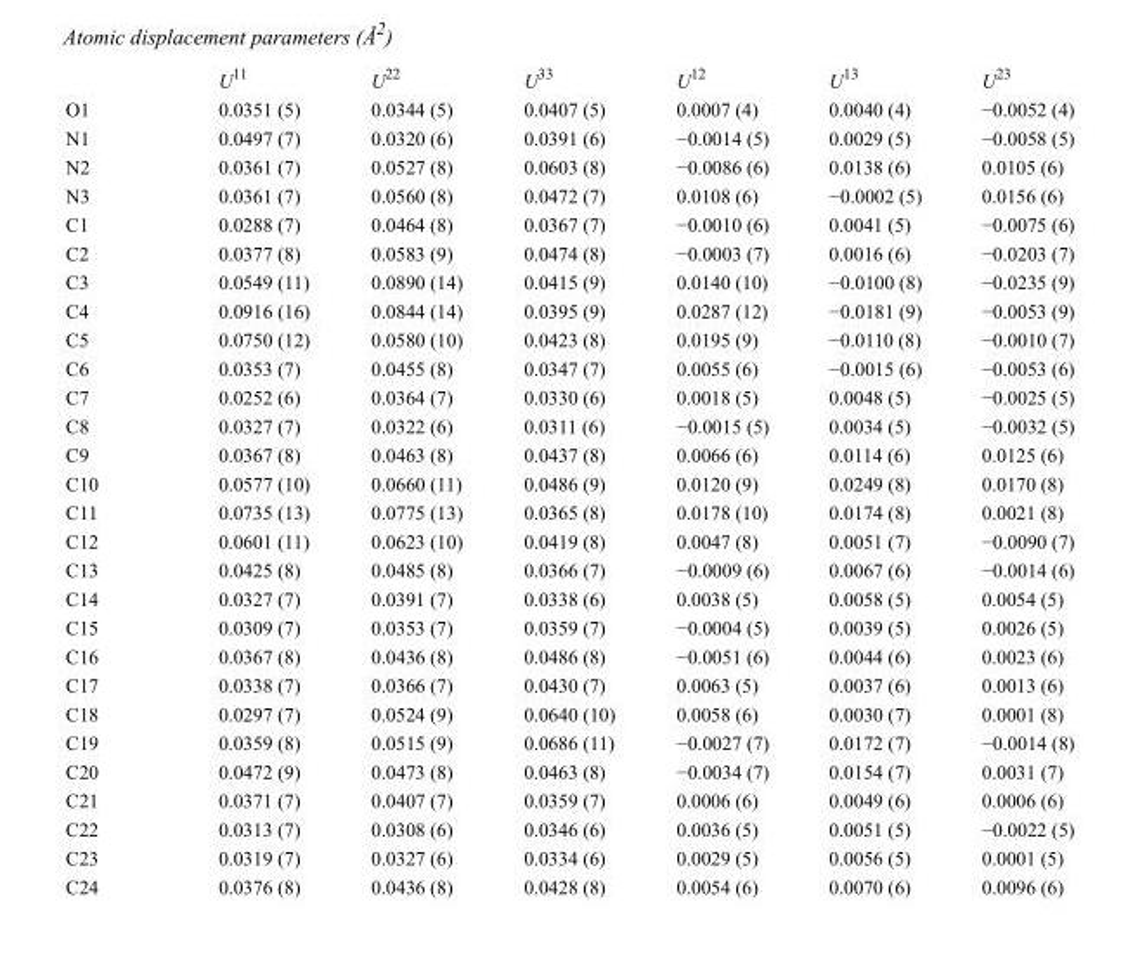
<table><thead><tr><td></td><td>U<sup>11</sup></td><td>U<sup>22</sup></td><td>U<sup>33</sup></td><td>U<sup>12</sup></td><td>U<sup>13</sup></td><td>U<sup>23</sup></td></tr></thead><tbody><tr><td>O1</td><td>0.0351 (5)</td><td>0.0344 (5)</td><td>0.0407 (5)</td><td>0.0007 (4)</td><td>0.0040 (4)</td><td>−0.0052 (4)</td></tr><tr><td>N1</td><td>0.0497 (7)</td><td>0.0320 (6)</td><td>0.0391 (6)</td><td>−0.0014 (5)</td><td>0.0029 (5)</td><td>−0.0058 (5)</td></tr><tr><td>N2</td><td>0.0361 (7)</td><td>0.0527 (8)</td><td>0.0603 (8)</td><td>−0.0086 (6)</td><td>0.0138 (6)</td><td>0.0105 (6)</td></tr><tr><td>N3</td><td>0.0361 (7)</td><td>0.0560 (8)</td><td>0.0472 (7)</td><td>0.0108 (6)</td><td>−0.0002 (5)</td><td>0.0156 (6)</td></tr><tr><td>C1</td><td>0.0288 (7)</td><td>0.0464 (8)</td><td>0.0367 (7)</td><td>−0.0010 (6)</td><td>0.0041 (5)</td><td>−0.0075 (6)</td></tr><tr><td>C2</td><td>0.0377 (8)</td><td>0.0583 (9)</td><td>0.0474 (8)</td><td>−0.0003 (7)</td><td>0.0016 (6)</td><td>−0.0203 (7)</td></tr><tr><td>C3</td><td>0.0549 (11)</td><td>0.0890 (14)</td><td>0.0415 (9)</td><td>0.0140 (10)</td><td>−0.0100 (8)</td><td>−0.0235 (9)</td></tr><tr><td>C4</td><td>0.0916 (16)</td><td>0.0844 (14)</td><td>0.0395 (9)</td><td>0.0287 (12)</td><td>−0.0181 (9)</td><td>−0.0053 (9)</td></tr><tr><td>C5</td><td>0.0750 (12)</td><td>0.0580 (10)</td><td>0.0423 (8)</td><td>0.0195 (9)</td><td>−0.0110 (8)</td><td>−0.0010 (7)</td></tr><tr><td>C6</td><td>0.0353 (7)</td><td>0.0455 (8)</td><td>0.0347 (7)</td><td>0.0055 (6)</td><td>−0.0015 (6)</td><td>−0.0053 (6)</td></tr><tr><td>C7</td><td>0.0252 (6)</td><td>0.0364 (7)</td><td>0.0330 (6)</td><td>0.0018 (5)</td><td>0.0048 (5)</td><td>−0.0025 (5)</td></tr><tr><td>C8</td><td>0.0327 (7)</td><td>0.0322 (6)</td><td>0.0311 (6)</td><td>−0.0015 (5)</td><td>0.0034 (5)</td><td>−0.0032 (5)</td></tr><tr><td>C9</td><td>0.0367 (8)</td><td>0.0463 (8)</td><td>0.0437 (8)</td><td>0.0066 (6)</td><td>0.0114 (6)</td><td>0.0125 (6)</td></tr><tr><td>C10</td><td>0.0577 (10)</td><td>0.0660 (11)</td><td>0.0486 (9)</td><td>0.0120 (9)</td><td>0.0249 (8)</td><td>0.0170 (8)</td></tr><tr><td>C11</td><td>0.0735 (13)</td><td>0.0775 (13)</td><td>0.0365 (8)</td><td>0.0178 (10)</td><td>0.0174 (8)</td><td>0.0021 (8)</td></tr><tr><td>C12</td><td>0.0601 (11)</td><td>0.0623 (10)</td><td>0.0419 (8)</td><td>0.0047 (8)</td><td>0.0051 (7)</td><td>−0.0090 (7)</td></tr><tr><td>C13</td><td>0.0425 (8)</td><td>0.0485 (8)</td><td>0.0366 (7)</td><td>−0.0009 (6)</td><td>0.0067 (6)</td><td>−0.0014 (6)</td></tr><tr><td>C14</td><td>0.0327 (7)</td><td>0.0391 (7)</td><td>0.0338 (6)</td><td>0.0038 (5)</td><td>0.0058 (5)</td><td>0.0054 (5)</td></tr><tr><td>C15</td><td>0.0309 (7)</td><td>0.0353 (7)</td><td>0.0359 (7)</td><td>−0.0004 (5)</td><td>0.0039 (5)</td><td>0.0026 (5)</td></tr><tr><td>C16</td><td>0.0367 (8)</td><td>0.0436 (8)</td><td>0.0486 (8)</td><td>−0.0051 (6)</td><td>0.0044 (6)</td><td>0.0023 (6)</td></tr><tr><td>C17</td><td>0.0338 (7)</td><td>0.0366 (7)</td><td>0.0430 (7)</td><td>0.0063 (5)</td><td>0.0037 (6)</td><td>0.0013 (6)</td></tr><tr><td>C18</td><td>0.0297 (7)</td><td>0.0524 (9)</td><td>0.0640 (10)</td><td>0.0058 (6)</td><td>0.0030 (7)</td><td>0.0001 (8)</td></tr><tr><td>C19</td><td>0.0359 (8)</td><td>0.0515 (9)</td><td>0.0686 (11)</td><td>−0.0027 (7)</td><td>0.0172 (7)</td><td>−0.0014 (8)</td></tr><tr><td>C20</td><td>0.0472 (9)</td><td>0.0473 (8)</td><td>0.0463 (8)</td><td>−0.0034 (7)</td><td>0.0154 (7)</td><td>0.0031 (7)</td></tr><tr><td>C21</td><td>0.0371 (7)</td><td>0.0407 (7)</td><td>0.0359 (7)</td><td>0.0006 (6)</td><td>0.0049 (6)</td><td>0.0006 (6)</td></tr><tr><td>C22</td><td>0.0313 (7)</td><td>0.0308 (6)</td><td>0.0346 (6)</td><td>0.0036 (5)</td><td>0.0051 (5)</td><td>−0.0022 (5)</td></tr><tr><td>C23</td><td>0.0319 (7)</td><td>0.0327 (6)</td><td>0.0334 (6)</td><td>0.0029 (5)</td><td>0.0056 (5)</td><td>0.0001 (5)</td></tr><tr><td>C24</td><td>0.0376 (8)</td><td>0.0436 (8)</td><td>0.0428 (8)</td><td>0.0054 (6)</td><td>0.0070 (6)</td><td>0.0096 (6)</td></tr></tbody></table>